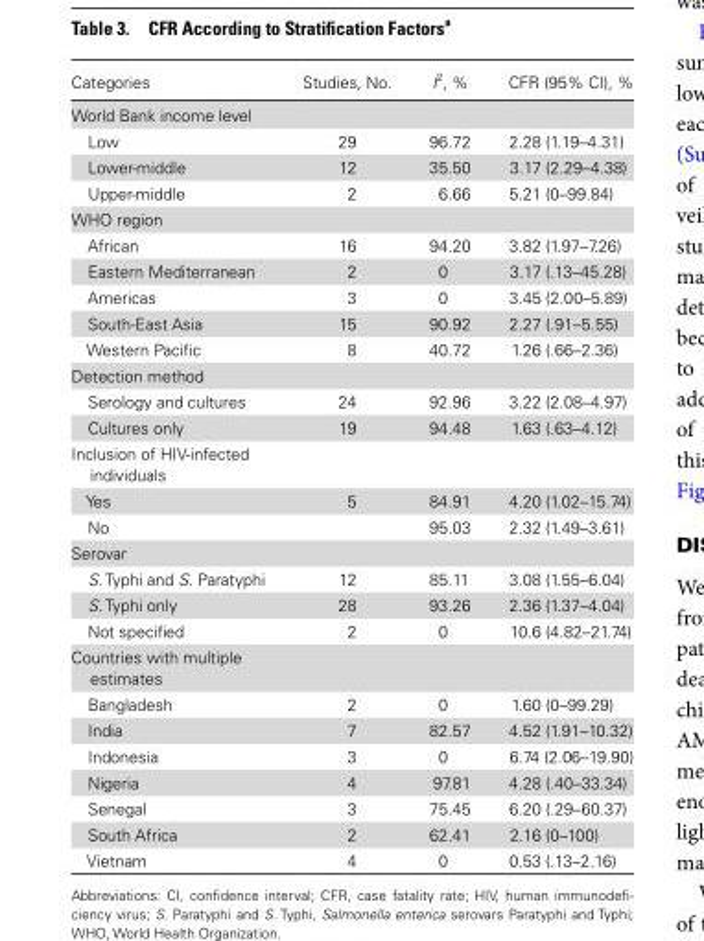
<table><thead><tr><td>Categories</td><td>Studies, No.</td><td>I<sup>2</sup>, %</td><td>CFR (95% CI), %</td></tr></thead><tbody><tr><td colspan="4">World Bank income level</td></tr><tr><td>Low</td><td>29</td><td>96.72</td><td>2.28 (1.19–4.31)</td></tr><tr><td>Lower-middle</td><td>12</td><td>35.50</td><td>3.17 (2.29–4.38)</td></tr><tr><td>Upper-middle</td><td>2</td><td>6.66</td><td>5.21 (0–99.84)</td></tr><tr><td colspan="4">WHO region</td></tr><tr><td>African</td><td>16</td><td>94.20</td><td>3.82 (1.97–7.26)</td></tr><tr><td>Eastern Mediterranean</td><td>2</td><td>0</td><td>3.17 (.13–45.28)</td></tr><tr><td>Americas</td><td>3</td><td>0</td><td>3.45 (2.00–5.89)</td></tr><tr><td>South-East Asia</td><td>15</td><td>90.92</td><td>2.27 (.91–5.55)</td></tr><tr><td>Western Pacific</td><td>8</td><td>40.72</td><td>1.26 (.66–2.36)</td></tr><tr><td colspan="4">Detection method</td></tr><tr><td>Serology and cultures</td><td>24</td><td>92.96</td><td>3.22 (2.08–4.97)</td></tr><tr><td>Cultures only</td><td>19</td><td>94.48</td><td>1.63 (.63–4.12)</td></tr><tr><td colspan="4">Inclusion of HIV-infected individuals</td></tr><tr><td>Yes</td><td>5</td><td>84.91</td><td>4.20 (1.02–15.74)</td></tr><tr><td>No</td><td></td><td>95.03</td><td>2.32 (1.49–3.61)</td></tr><tr><td colspan="4">Serovar</td></tr><tr><td>S. Typhi and S. Paratyphi</td><td>12</td><td>85.11</td><td>3.08 (1.55–6.04)</td></tr><tr><td>S. Typhi only</td><td>28</td><td>93.26</td><td>2.36 (1.37–4.04)</td></tr><tr><td>Not specified</td><td>2</td><td>0</td><td>10.6 (4.82–21.74)</td></tr><tr><td colspan="4">Countries with multiple estimates</td></tr><tr><td>Bangladesh</td><td>2</td><td>0</td><td>1.60 (0–99.29)</td></tr><tr><td>India</td><td>7</td><td>82.57</td><td>4.52 (1.91–10.32)</td></tr><tr><td>Indonesia</td><td>3</td><td>0</td><td>6.74 (2.06–19.90)</td></tr><tr><td>Nigeria</td><td>4</td><td>97.81</td><td>4.28 (.40–33.34)</td></tr><tr><td>Senegal</td><td>3</td><td>75.45</td><td>6.20 (.29–60.37)</td></tr><tr><td>South Africa</td><td>2</td><td>62.41</td><td>2.16 (0–100)</td></tr><tr><td>Vietnam</td><td>4</td><td>0</td><td>0.53 (.13–2.16)</td></tr></tbody></table>